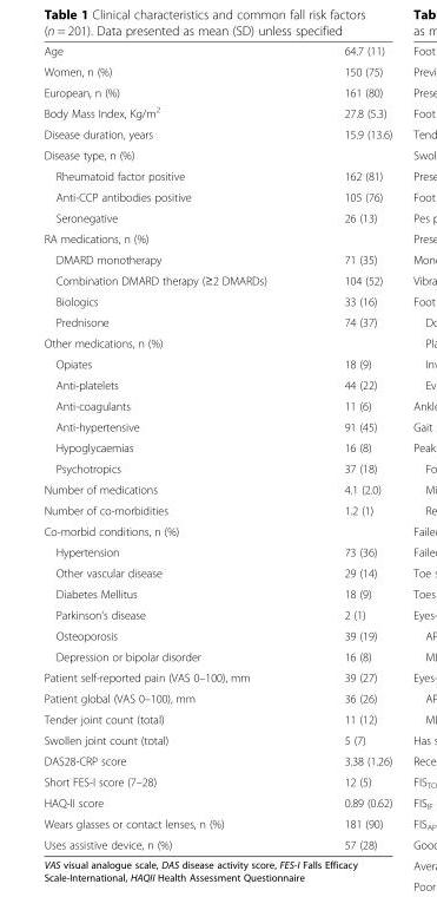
<table><tbody><tr><td>Age</td><td>64.7 (11)</td></tr><tr><td>Women, n (%)</td><td>150 (75)</td></tr><tr><td>European, n (%)</td><td>161 (80)</td></tr><tr><td>Body Mass Index, Kg/m<sup>2</sup></td><td>27.8 (5.3)</td></tr><tr><td>Disease duration, years</td><td>15.9 (13.6)</td></tr><tr><td colspan="2">Disease type, n (%)</td></tr><tr><td>Rheumatoid factor positive</td><td>162 (81)</td></tr><tr><td>Anti-CCP antibodies positive</td><td>105 (76)</td></tr><tr><td>Seronegative</td><td>26 (13)</td></tr><tr><td colspan="2">RA medications, n (%)</td></tr><tr><td>DMARD monotherapy</td><td>71 (35)</td></tr><tr><td>Combination DMARD therapy (≥2 DMARDs)</td><td>104 (52)</td></tr><tr><td>Biologics</td><td>33 (16)</td></tr><tr><td>Prednisone</td><td>74 (37)</td></tr><tr><td colspan="2">Other medications, n (%)</td></tr><tr><td>Opiates</td><td>18 (9)</td></tr><tr><td>Anti-platelets</td><td>44 (22)</td></tr><tr><td>Anti-coagulants</td><td>11 (6)</td></tr><tr><td>Anti-hypertensive</td><td>91 (45)</td></tr><tr><td>Hypoglycaemias</td><td>16 (8)</td></tr><tr><td>Psychotropics</td><td>37 (18)</td></tr><tr><td>Number of medications</td><td>4.1 (2.0)</td></tr><tr><td>Number of co-morbidities</td><td>1.2 (1)</td></tr><tr><td colspan="2">Co-morbid conditions, n (%)</td></tr><tr><td>Hypertension</td><td>73 (36)</td></tr><tr><td>Other vascular disease</td><td>29 (14)</td></tr><tr><td>Diabetes Mellitus</td><td>18 (9)</td></tr><tr><td>Parkinson’s disease</td><td>2 (1)</td></tr><tr><td>Osteoporosis</td><td>39 (19)</td></tr><tr><td>Depression or bipolar disorder</td><td>16 (8)</td></tr><tr><td>Patient self-reported pain (VAS 0–100), mm</td><td>39 (27)</td></tr><tr><td>Patient global (VAS 0–100), mm</td><td>36 (26)</td></tr><tr><td>Tender joint count (total)</td><td>11 (12)</td></tr><tr><td>Swollen joint count (total)</td><td>5 (7)</td></tr><tr><td>DAS28-CRP score</td><td>3.38 (1.26)</td></tr><tr><td>Short FES-I score (7–28)</td><td>12 (5)</td></tr><tr><td>HAQ-II score</td><td>0.89 (0.62)</td></tr><tr><td>Wears glasses or contact lenses, n (%)</td><td>181 (90)</td></tr><tr><td>Uses assistive device, n (%)</td><td>57 (28)</td></tr></tbody></table>